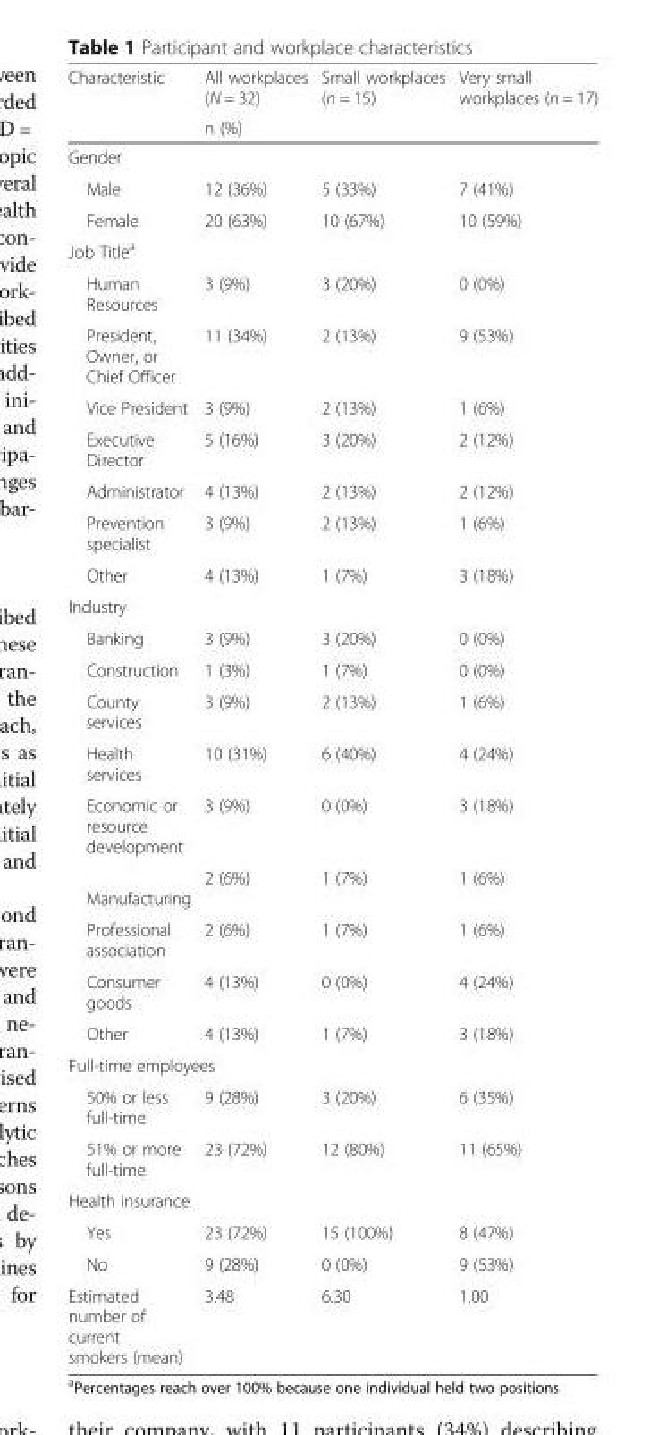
<table><thead><tr><td rowspan="2">Characteristic</td><td>All workplaces (N = 32)</td><td>Small workplaces (n = 15)</td><td>Very small workplaces (n = 17)</td></tr><tr><td colspan="3">n (%)</td></tr></thead><tbody><tr><td colspan="4">Gender</td></tr><tr><td>Male</td><td>12 (36%)</td><td>5 (33%)</td><td>7 (41%)</td></tr><tr><td>Female</td><td>20 (63%)</td><td>10 (67%)</td><td>10 (59%)</td></tr><tr><td colspan="4">Job Title<sup>a</sup></td></tr><tr><td>Human Resources</td><td>3 (9%)</td><td>3 (20%)</td><td>0 (0%)</td></tr><tr><td>President, Owner, or Chief Officer</td><td>11 (34%)</td><td>2 (13%)</td><td>9 (53%)</td></tr><tr><td>Vice President</td><td>3 (9%)</td><td>2 (13%)</td><td>1 (6%)</td></tr><tr><td>Executive Director</td><td>5 (16%)</td><td>3 (20%)</td><td>2 (12%)</td></tr><tr><td>Administrator</td><td>4 (13%)</td><td>2 (13%)</td><td>2 (12%)</td></tr><tr><td>Prevention specialist</td><td>3 (9%)</td><td>2 (13%)</td><td>1 (6%)</td></tr><tr><td>Other</td><td>4 (13%)</td><td>1 (7%)</td><td>3 (18%)</td></tr><tr><td colspan="4">Industry</td></tr><tr><td>Banking</td><td>3 (9%)</td><td>3 (20%)</td><td>0 (0%)</td></tr><tr><td>Construction</td><td>1 (3%)</td><td>1 (7%)</td><td>0 (0%)</td></tr><tr><td>County services</td><td>3 (9%)</td><td>2 (13%)</td><td>1 (6%)</td></tr><tr><td>Health services</td><td>10 (31%)</td><td>6 (40%)</td><td>4 (24%)</td></tr><tr><td>Economic or resource development</td><td>3 (9%)</td><td>0 (0%)</td><td>3 (18%)</td></tr><tr><td>Manufacturing</td><td>2 (6%)</td><td>1 (7%)</td><td>1 (6%)</td></tr><tr><td>Professional association</td><td>2 (6%)</td><td>1 (7%)</td><td>1 (6%)</td></tr><tr><td>Consumer goods</td><td>4 (13%)</td><td>0 (0%)</td><td>4 (24%)</td></tr><tr><td>Other</td><td>4 (13%)</td><td>1 (7%)</td><td>3 (18%)</td></tr><tr><td colspan="4">Full-time employees</td></tr><tr><td>50% or less full-time</td><td>9 (28%)</td><td>3 (20%)</td><td>6 (35%)</td></tr><tr><td>51% or more full-time</td><td>23 (72%)</td><td>12 (80%)</td><td>11 (65%)</td></tr><tr><td colspan="4">Health insurance</td></tr><tr><td>Yes</td><td>23 (72%)</td><td>15 (100%)</td><td>8 (47%)</td></tr><tr><td>No</td><td>9 (28%)</td><td>0 (0%)</td><td>9 (53%)</td></tr><tr><td>Estimated number of current smokers (mean)</td><td>3.48</td><td>6.30</td><td>1.00</td></tr></tbody></table>